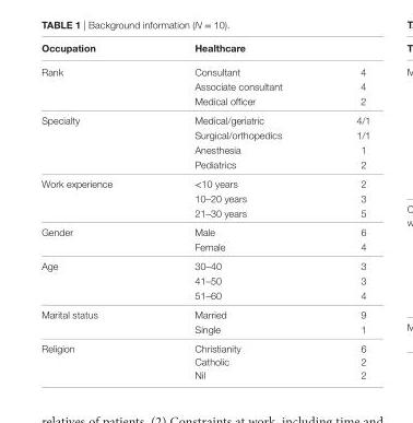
<table><thead><tr><td>Occupation</td><td>healthcare</td><td></td></tr></thead><tbody><tr><td rowspan="3">Rank</td><td>Consultant</td><td>4</td></tr><tr><td>Associate consultant</td><td>4</td></tr><tr><td>Medical officer</td><td>2</td></tr><tr><td rowspan="4">Specialty</td><td>Medical/geriatric</td><td>4/1</td></tr><tr><td>Surgical/orthopedics</td><td>1/1</td></tr><tr><td>Anesthesia</td><td>1</td></tr><tr><td>Pediatrics</td><td>2</td></tr><tr><td rowspan="3">Work experience</td><td>&lt;10 years</td><td>2</td></tr><tr><td>10–20 years</td><td>3</td></tr><tr><td>21–30 years</td><td>5</td></tr><tr><td rowspan="2">Gender</td><td>Male</td><td>6</td></tr><tr><td>Female</td><td>4</td></tr><tr><td rowspan="3">Age</td><td>30–40</td><td>3</td></tr><tr><td>41–50</td><td>3</td></tr><tr><td>51–60</td><td>4</td></tr><tr><td rowspan="2">Marital status</td><td>Married</td><td>9</td></tr><tr><td>Single</td><td>1</td></tr><tr><td rowspan="3">Religion</td><td>Christianity</td><td>6</td></tr><tr><td>Catholic</td><td>2</td></tr><tr><td>Nil</td><td>2</td></tr></tbody></table>